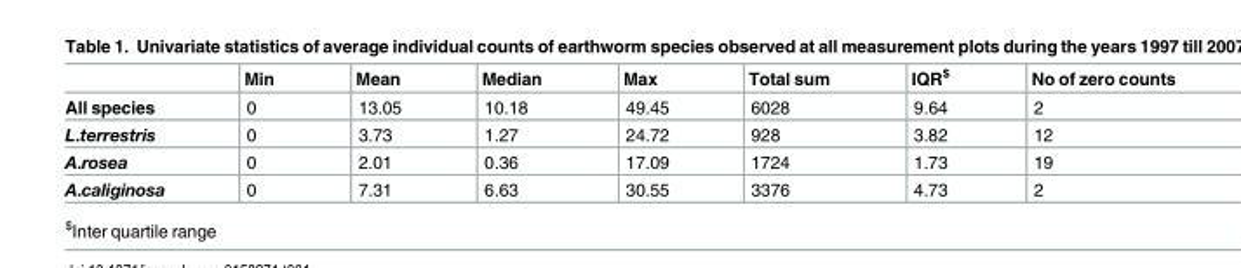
<table><thead><tr><td></td><td>Min</td><td>Mean</td><td>Median</td><td>Max</td><td>Total sum</td><td>IQR<sup>$</sup></td><td>No of zero counts</td></tr></thead><tbody><tr><td>All species</td><td>0</td><td>13.05</td><td>10.18</td><td>49.45</td><td>6028</td><td>9.64</td><td>2</td></tr><tr><td>L.terrestris</td><td>0</td><td>3.73</td><td>1.27</td><td>24.72</td><td>928</td><td>3.82</td><td>12</td></tr><tr><td>A.rosea</td><td>0</td><td>2.01</td><td>0.36</td><td>17.09</td><td>1724</td><td>1.73</td><td>19</td></tr><tr><td>A.caliginosa</td><td>0</td><td>7.31</td><td>6.63</td><td>30.55</td><td>3376</td><td>4.73</td><td>2</td></tr></tbody></table>